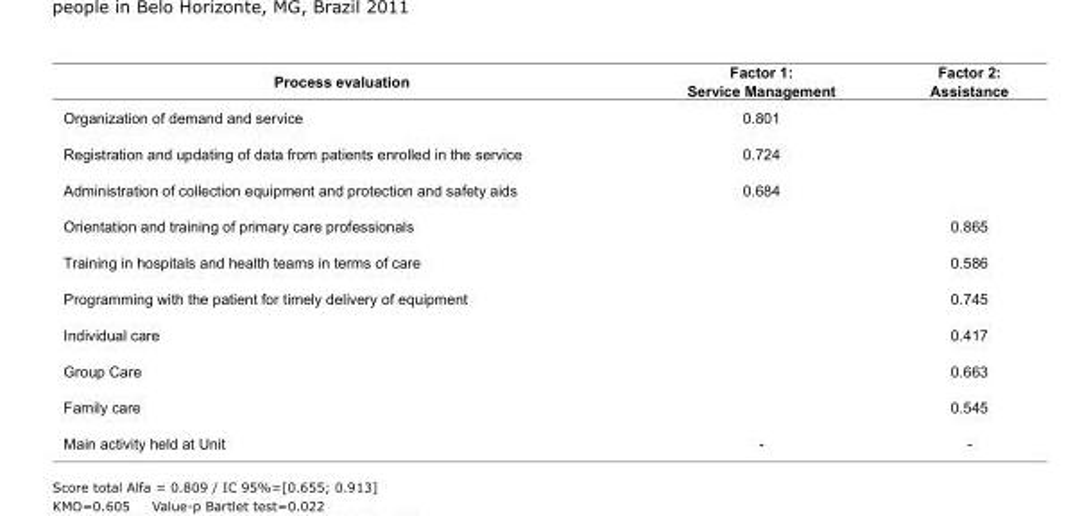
<table><tbody><tr><td>Process evaluation</td><td>Factor 1: Service Management</td><td>Factor 2: Assistance</td></tr><tr><td>Organization of demand and service</td><td>0.801</td><td></td></tr><tr><td>Registration and updating of data from patients enrolled in the service</td><td>0.724</td><td></td></tr><tr><td>Administration of collection equipment and protection and safety aids</td><td>0.684</td><td></td></tr><tr><td>Orientation and training of primary care professionals</td><td></td><td>0.865</td></tr><tr><td>Training in hospitals and health teams in terms of care</td><td></td><td>0.586</td></tr><tr><td>Programming with the patient for timely delivery of equipment</td><td></td><td>0.745</td></tr><tr><td>Individual care</td><td></td><td>0.417</td></tr><tr><td>Group Care</td><td></td><td>0.663</td></tr><tr><td>Family care</td><td></td><td>0.545</td></tr><tr><td>Main activity held at Unit</td><td>-</td><td>-</td></tr></tbody></table>